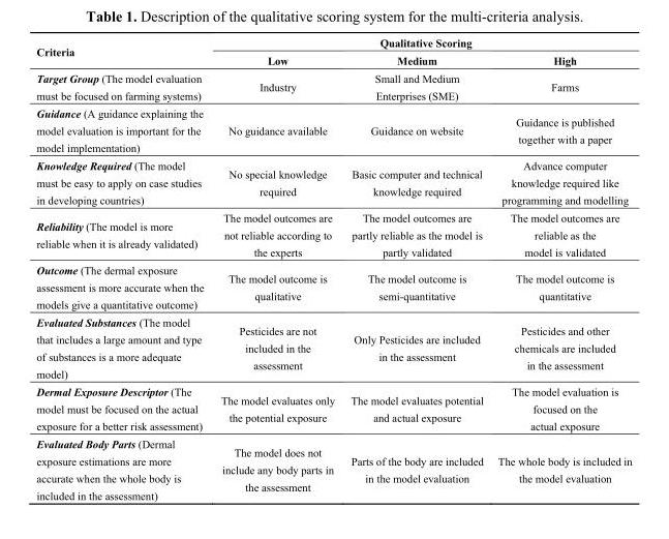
<table><thead><tr><td rowspan="2">Criteria</td><td colspan="3">Qualitative Scoring</td></tr><tr><td>Low</td><td>Medium</td><td>High</td></tr></thead><tbody><tr><td>Target Group (The model evaluation must be focused on farming systems)</td><td>Industry</td><td>Small and Medium Enterprises (SME)</td><td>Farms</td></tr><tr><td>Guidance (A guidance explaining the model evaluation is important for the model implementation)</td><td>No guidance available</td><td>Guidance on website</td><td>Guidance is published together with a paper</td></tr><tr><td>Knowledge Required (The model must be easy to apply on case studies in developing countries)</td><td>No special knowledge required</td><td>Basic computer and technical knowledge required</td><td>Advance computer knowledge required like programming and modelling</td></tr><tr><td>Reliability (The model is more reliable when it is already validated)</td><td>The model outcomes are not reliable according to the experts</td><td>The model outcomes are partly reliable as the model is partly validated</td><td>The model outcomes are reliable as the model is validated</td></tr><tr><td>Outcome (The dermal exposure assessment is more accurate when the models give a quantitative outcome)</td><td>The model outcome is qualitative</td><td>The model outcome is semi-quantitative</td><td>The model outcome is quantitative</td></tr><tr><td>Evaluated Substances (The model that includes a large amount and type of substances is a more adequate model)</td><td>Pesticides are not included in the assessment</td><td>Only Pesticides are included in the assessment</td><td>Pesticides and other chemicals are included in the assessment</td></tr><tr><td>Dermal Exposure Descriptor (The model must be focused on the actual exposure for a better risk assessment)</td><td>The model evaluates only the potential exposure</td><td>The model evaluates potential and actual exposure</td><td>The model evaluation is focused on the actual exposure</td></tr><tr><td>Evaluated Body Parts (Dermal exposure estimations are more accurate when the whole body is included in the assessment)</td><td>The model does not include any body parts in the assessment</td><td>Parts of the body are included in the model evaluation</td><td>The whole body is included in the model evaluation</td></tr></tbody></table>